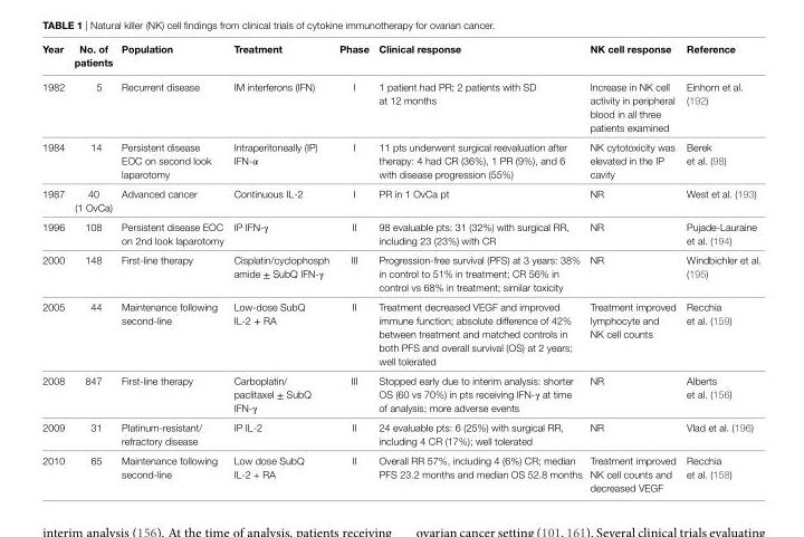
<table><thead><tr><td>Year</td><td>No. of patients</td><td>Population</td><td>Treatment</td><td>Phase</td><td>Clinical response</td><td>NK cell response</td><td>Reference</td></tr></thead><tbody><tr><td>1982</td><td>5</td><td>Recurrent disease</td><td>IM interferons (IFN)</td><td>I</td><td>1 patient had PR; 2 patients with SD at 12 months</td><td>Increase in NK cell activity in peripheral blood in all three patients examined</td><td>Einhorn et al. (192)</td></tr><tr><td>1984</td><td>14</td><td>Persistent disease EOC on second look laparotomy</td><td>Intraperitoneally (IP) IFN-α</td><td>I</td><td>11 pts underwent surgical reevaluation after therapy: 4 had CR (36%), 1 PR (9%), and 6 with disease progression (55%)</td><td>NK cytotoxicity was elevated in the IP cavity</td><td>Berek et al. (98)</td></tr><tr><td>1987</td><td>40 (1 OvCa)</td><td>Advanced cancer</td><td>Continuous IL-2</td><td>I</td><td>PR in 1 OvCa pt</td><td>NR</td><td>West et al. (193)</td></tr><tr><td>1996</td><td>108</td><td>Persistent disease EOC on 2nd look laparotomy</td><td>IP IFN-γ</td><td>II</td><td>98 evaluable pts: 31 (32%) with surgical RR, including 23 (23%) with CR</td><td>NR</td><td>Pujade-Lauraine et al. (194)</td></tr><tr><td>2000</td><td>148</td><td>First-line therapy</td><td>Cisplatin/cyclophosph amide ± SubQ IFN-γ</td><td>III</td><td>Progression-free survival (PFS) at 3 years: 38% in control to 51% in treatment; CR 56% in control vs 68% in treatment; similar toxicity</td><td>NR</td><td>Windbichler et al. (195)</td></tr><tr><td>2005</td><td>44</td><td>Maintenance following second-line</td><td>Low-dose SubQ IL-2 + RA</td><td>II</td><td>Treatment decreased VEGF and improved immune function; absolute difference of 42% between treatment and matched controls in both PFS and overall survival (OS) at 2 years; well tolerated</td><td>Treatment improved lymphocyte and NK cell counts</td><td>Recchia et al. (159)</td></tr><tr><td>2008</td><td>847</td><td>First-line therapy</td><td>Carboplatin/ paclitaxel ± SubQ IFN-γ</td><td>III</td><td>Stopped early due to interim analysis: shorter OS (60 vs 70%) in pts receiving IFN-γ at time of analysis; more adverse events</td><td>NR</td><td>Alberts et al. (156)</td></tr><tr><td>2009</td><td>31</td><td>Platinum-resistant/ refractory disease</td><td>IP IL-2</td><td>II</td><td>24 evaluable pts: 6 (25%) with surgical RR, including 4 CR (17%); well tolerated</td><td>NR</td><td>Vlad et al. (196)</td></tr><tr><td>2010</td><td>65</td><td>Maintenance following second-line</td><td>Low dose SubQ IL-2 + RA</td><td>II</td><td>Overall RR 57%, including 4 (6%) CR; median PFS 23.2 months and median OS 52.8 months</td><td>Treatment improved NK cell counts and decreased VEGF</td><td>Recchia et al. (158)</td></tr></tbody></table>